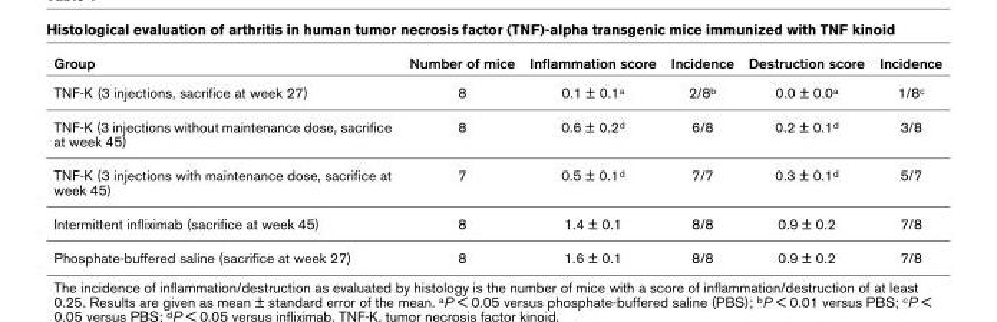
<table><thead><tr><td>Group</td><td>Number of mice</td><td>Inflammation score</td><td>Incidence</td><td>Destruction score</td><td>Incidence</td></tr></thead><tbody><tr><td>TNF-K (3 injections, sacrifice at week 27)</td><td>8</td><td>0.1 ± 0.1<sup>a</sup></td><td>2/8<sup>b</sup></td><td>0.0 ± 0.0<sup>a</sup></td><td>1/8<sup>c</sup></td></tr><tr><td>TNF-K (3 injections without maintenance dose, sacrifice at week 45)</td><td>8</td><td>0.6 ± 0.2<sup>d</sup></td><td>6/8</td><td>0.2 ± 0.1<sup>d</sup></td><td>3/8</td></tr><tr><td>TNF-K (3 injections with maintenance dose, sacrifice at week 45)</td><td>7</td><td>0.5 ± 0.1<sup>d</sup></td><td>7/7</td><td>0.3 ± 0.1<sup>d</sup></td><td>5/7</td></tr><tr><td>Intermittent infliximab (sacrifice at week 45)</td><td>8</td><td>1.4 ± 0.1</td><td>8/8</td><td>0.9 ± 0.2</td><td>7/8</td></tr><tr><td>Phosphate-buffered saline (sacrifice at week 27)</td><td>8</td><td>1.6 ± 0.1</td><td>8/8</td><td>0.9 ± 0.2</td><td>7/8</td></tr></tbody></table>